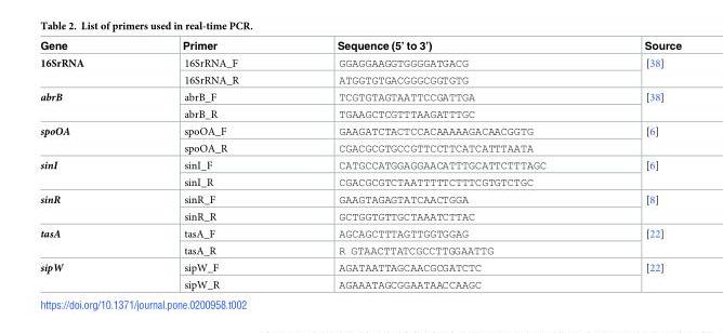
<table><thead><tr><td>Gene</td><td>Primer</td><td>Sequence (5’ to 3’)</td><td>Source</td></tr></thead><tbody><tr><td rowspan="2">16SrRNA</td><td>16SrRNA_F</td><td>GGAGGAAGGTGGGGATGACG</td><td rowspan="2">[38]</td></tr><tr><td>16SrRNA_R</td><td>ATGGTGTGACGGGCGGTGTG</td></tr><tr><td rowspan="2">abrB</td><td>abrB_F</td><td>TCGTGTAGTAATTCCGATTGA</td><td rowspan="2">[38]</td></tr><tr><td>abrB_R</td><td>TGAAGCTCGTTTAAGATTTGC</td></tr><tr><td rowspan="2">spoOA</td><td>spoOA_F</td><td>GAAGATCTACTCCACAAAAAGACAACGGTG</td><td rowspan="2">[6]</td></tr><tr><td>spoOA_R</td><td>CGACGCGTGCCGTTCCTTCATCATTTAATA</td></tr><tr><td rowspan="2">sinI</td><td>sinI_F</td><td>CATGCCATGGAGGAACATTTGCATTCTTTAGC</td><td rowspan="2">[6]</td></tr><tr><td>sinI_R</td><td>CGACGCGTCTAATTTTTCTTTCGTGTCTGC</td></tr><tr><td rowspan="2">sinR</td><td>sinR_F</td><td>GAAGTAGAGTATCAACTGGA</td><td rowspan="2">[8]</td></tr><tr><td>sinR_R</td><td>GCTGGTGTTGCTAAATCTTAC</td></tr><tr><td rowspan="2">tasA</td><td>tasA_F</td><td>AGCAGCTTTAGTTGGTGGAG</td><td rowspan="2">[22]</td></tr><tr><td>tasA_R</td><td>R GTAACTTATCGCCTTGGAATTG</td></tr><tr><td rowspan="2">sipW</td><td>sipW_F</td><td>AGATAATTAGCAACGCGATCTC</td><td rowspan="2">[22]</td></tr><tr><td>sipW_R</td><td>AGAAATAGCGGAATAACCAAGC</td></tr></tbody></table>